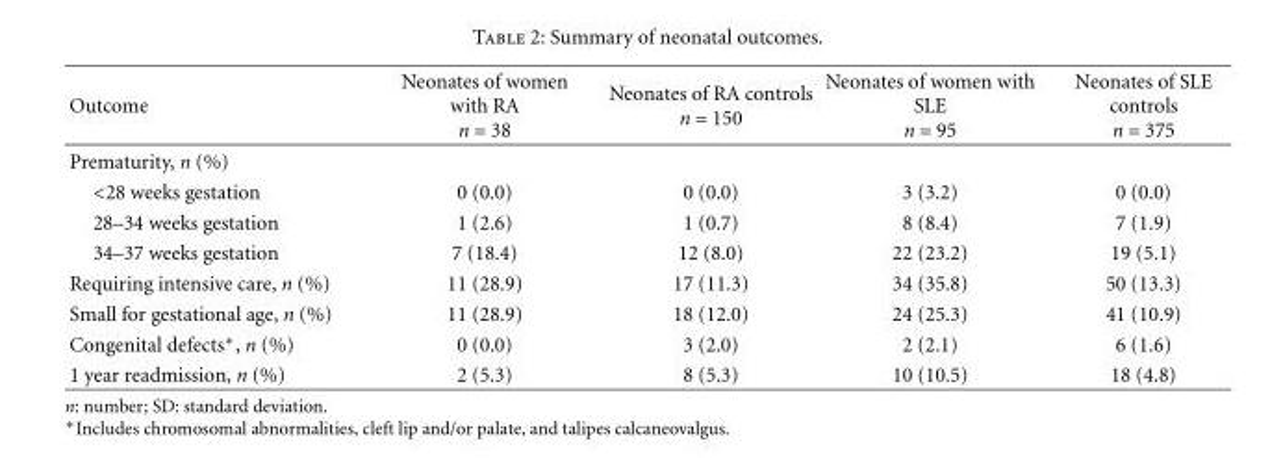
<table><thead><tr><td>Outcome</td><td>Neonates of women with RA n = 38</td><td>Neonates of RA controls n = 150</td><td>Neonates of women with SLE n = 95</td><td>Neonates of SLE controls n = 375</td></tr></thead><tbody><tr><td colspan="5">Prematurity, n (%)</td></tr><tr><td>&lt;28 weeks gestation</td><td>0 (0.0)</td><td>0 (0.0)</td><td>3 (3.2)</td><td>0 (0.0)</td></tr><tr><td>28–34 weeks gestation</td><td>1 (2.6)</td><td>1 (0.7)</td><td>8 (8.4)</td><td>7 (1.9)</td></tr><tr><td>34–37 weeks gestation</td><td>7 (18.4)</td><td>12 (8.0)</td><td>22 (23.2)</td><td>19 (5.1)</td></tr><tr><td>Requiring intensive care, n (%)</td><td>11 (28.9)</td><td>17 (11.3)</td><td>34 (35.8)</td><td>50 (13.3)</td></tr><tr><td>Small for gestational age, n (%)</td><td>11 (28.9)</td><td>18 (12.0)</td><td>24 (25.3)</td><td>41 (10.9)</td></tr><tr><td>Congenital defects∗, n (%)</td><td>0 (0.0)</td><td>3 (2.0)</td><td>2 (2.1)</td><td>6 (1.6)</td></tr><tr><td>1 year readmission, n (%)</td><td>2 (5.3)</td><td>8 (5.3)</td><td>10 (10.5)</td><td>18 (4.8)</td></tr></tbody></table>